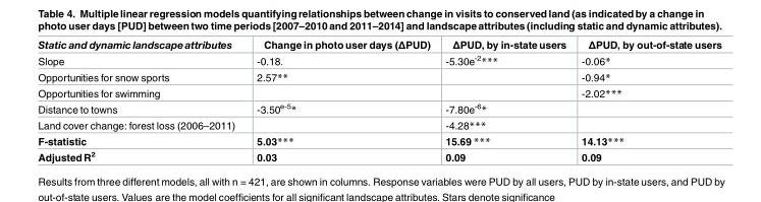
<table><thead><tr><td>Static and dynamic landscape attributes</td><td>Change in photo user days (ΔPUD)</td><td>ΔPUD, by in-state users</td><td>ΔPUD, by out-of-state users</td></tr></thead><tbody><tr><td>Slope</td><td>-0.18.</td><td>-5.30e<sup>-2</sup>***</td><td>-0.06*</td></tr><tr><td>Opportunities for snow sports</td><td>2.57**</td><td></td><td>-0.94*</td></tr><tr><td>Opportunities for swimming</td><td></td><td></td><td>-2.02***</td></tr><tr><td>Distance to towns</td><td>-3.50<sup>e-5</sup>*</td><td>-7.80e<sup>-6</sup>*</td><td></td></tr><tr><td>Land cover change: forest loss (2006–2011)</td><td></td><td>-4.28***</td><td></td></tr><tr><td>F-statistic</td><td>5.03***</td><td>15.69 ***</td><td>14.13***</td></tr><tr><td>Adjusted R<sup>2</sup></td><td>0.03</td><td>0.09</td><td>0.09</td></tr></tbody></table>